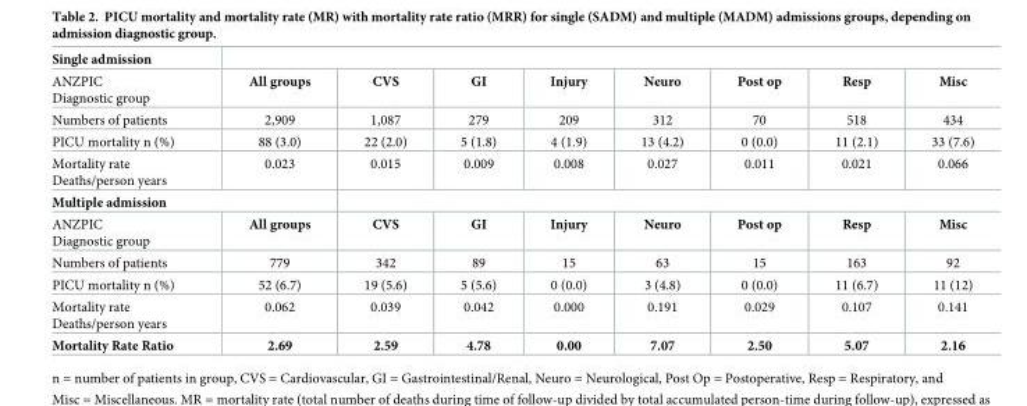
<table><tbody><tr><td colspan="9">Single admission</td></tr><tr><td>ANZPIC Diagnostic group</td><td>All groups</td><td>CVS</td><td>GI</td><td>Injury</td><td>Neuro</td><td>Post op</td><td>Resp</td><td>Misc</td></tr><tr><td>Numbers of patients</td><td>2,909</td><td>1,087</td><td>279</td><td>209</td><td>312</td><td>70</td><td>518</td><td>434</td></tr><tr><td>PICU mortality n (%)</td><td>88 (3.0)</td><td>22 (2.0)</td><td>5 (1.8)</td><td>4 (1.9)</td><td>13 (4.2)</td><td>0 (0.0)</td><td>11 (2.1)</td><td>33 (7.6)</td></tr><tr><td>Mortality rate Deaths/person years</td><td>0.023</td><td>0.015</td><td>0.009</td><td>0.008</td><td>0.027</td><td>0.011</td><td>0.021</td><td>0.066</td></tr><tr><td colspan="9">Multiple admission</td></tr><tr><td>ANZPIC Diagnostic group</td><td>All groups</td><td>CVS</td><td>GI</td><td>Injury</td><td>Neuro</td><td>Post op</td><td>Resp</td><td>Misc</td></tr><tr><td>Numbers of patients</td><td>779</td><td>342</td><td>89</td><td>15</td><td>63</td><td>15</td><td>163</td><td>92</td></tr><tr><td>PICU mortality n (%)</td><td>52 (6.7)</td><td>19 (5.6)</td><td>5 (5.6)</td><td>0 (0.0)</td><td>3 (4.8)</td><td>0 (0.0)</td><td>11 (6.7)</td><td>11 (12)</td></tr><tr><td>Mortality rate Deaths/person years</td><td>0.062</td><td>0.039</td><td>0.042</td><td>0.000</td><td>0.191</td><td>0.029</td><td>0.107</td><td>0.141</td></tr><tr><td>Mortality Rate Ratio</td><td>2.69</td><td>2.59</td><td>4.78</td><td>0.00</td><td>7.07</td><td>2.50</td><td>5.07</td><td>2.16</td></tr></tbody></table>